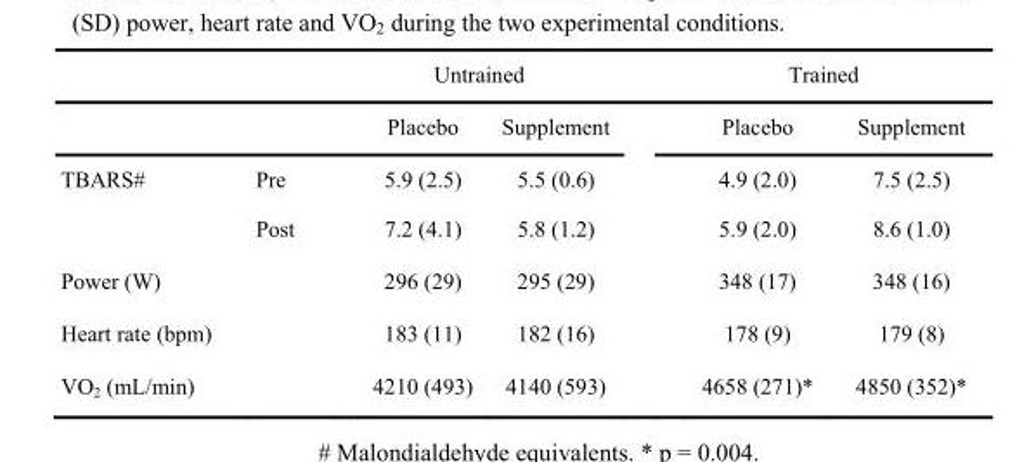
<table><thead><tr><td rowspan="2"></td><td rowspan="2"></td><td colspan="2">Untrained</td><td colspan="2">Trained</td></tr><tr><td>Placebo</td><td>Supplement</td><td>Placebo</td><td>Supplement</td></tr></thead><tbody><tr><td rowspan="2">TBARS#</td><td>Pre</td><td>5.9 (2.5)</td><td>5.5 (0.6)</td><td>4.9 (2.0)</td><td>7.5 (2.5)</td></tr><tr><td>Post</td><td>7.2 (4.1)</td><td>5.8 (1.2)</td><td>5.9 (2.0)</td><td>8.6 (1.0)</td></tr><tr><td>Power (W)</td><td></td><td>296 (29)</td><td>295 (29)</td><td>348 (17)</td><td>348 (16)</td></tr><tr><td>Heart rate (bpm)</td><td></td><td>183 (11)</td><td>182 (16)</td><td>178 (9)</td><td>179 (8)</td></tr><tr><td>VO<sub>2</sub> (mL/min)</td><td></td><td>4210 (493)</td><td>4140 (593)</td><td>4658 (271)*</td><td>4850 (352)*</td></tr></tbody></table>